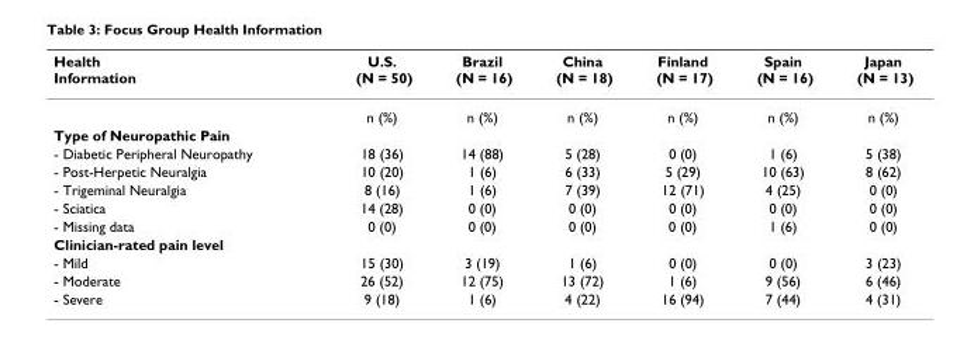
<table><thead><tr><td>Health Information</td><td>U.S. (N = 50)</td><td>Brazil (N = 16)</td><td>China (N = 18)</td><td>Finland (N = 17)</td><td>Spain (N = 16)</td><td>Japan (N = 13)</td></tr></thead><tbody><tr><td></td><td>n (%)</td><td>n (%)</td><td>n (%)</td><td>n (%)</td><td>n (%)</td><td>n (%)</td></tr><tr><td colspan="7">Type of Neuropathic Pain</td></tr><tr><td>- Diabetic Peripheral Neuropathy</td><td>18 (36)</td><td>14 (88)</td><td>5 (28)</td><td>0 (0)</td><td>1 (6)</td><td>5 (38)</td></tr><tr><td>- Post-Herpetic Neuralgia</td><td>10 (20)</td><td>1 (6)</td><td>6 (33)</td><td>5 (29)</td><td>10 (63)</td><td>8 (62)</td></tr><tr><td>- Trigeminal Neuralgia</td><td>8 (16)</td><td>1 (6)</td><td>7 (39)</td><td>12 (71)</td><td>4 (25)</td><td>0 (0)</td></tr><tr><td>- Sciatica</td><td>14 (28)</td><td>0 (0)</td><td>0 (0)</td><td>0 (0)</td><td>0 (0)</td><td>0 (0)</td></tr><tr><td>- Missing data</td><td>0 (0)</td><td>0 (0)</td><td>0 (0)</td><td>0 (0)</td><td>1 (6)</td><td>0 (0)</td></tr><tr><td colspan="7">Clinician-rated pain level</td></tr><tr><td>- Mild</td><td>15 (30)</td><td>3 (19)</td><td>1 (6)</td><td>0 (0)</td><td>0 (0)</td><td>3 (23)</td></tr><tr><td>- Moderate</td><td>26 (52)</td><td>12 (75)</td><td>13 (72)</td><td>1 (6)</td><td>9 (56)</td><td>6 (46)</td></tr><tr><td>- Severe</td><td>9 (18)</td><td>1 (6)</td><td>4 (22)</td><td>16 (94)</td><td>7 (44)</td><td>4 (31)</td></tr></tbody></table>